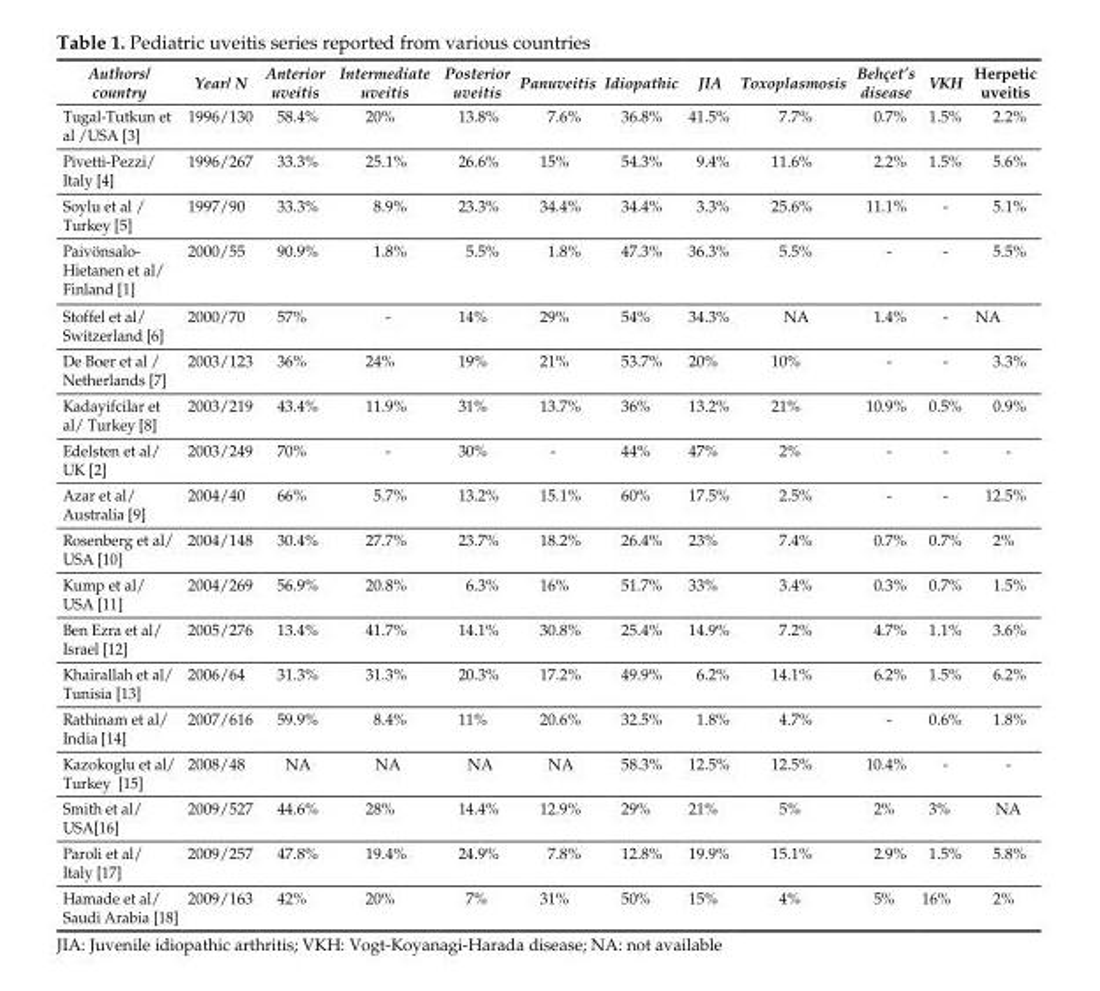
<table><thead><tr><td>Authors/ country</td><td>Year/ N</td><td>Anterior uveitis</td><td>Intermediate uveitis</td><td>Posterior uveitis</td><td>Panuveitis</td><td>Idiopathic</td><td>JIA</td><td>Toxoplasmosis</td><td>Behçet’s disease</td><td>VKH</td><td>Herpetic uveitis</td></tr></thead><tbody><tr><td>Tugal-Tutkun et al /USA [3]</td><td>1996/130</td><td>58.4%</td><td>20%</td><td>13.8%</td><td>7.6%</td><td>36.8%</td><td>41.5%</td><td>7.7%</td><td>0.7%</td><td>1.5%</td><td>2.2%</td></tr><tr><td>Pivetti-Pezzi/ Italy [4]</td><td>1996/267</td><td>33.3%</td><td>25.1%</td><td>26.6%</td><td>15%</td><td>54.3%</td><td>9.4%</td><td>11.6%</td><td>2.2%</td><td>1.5%</td><td>5.6%</td></tr><tr><td>Soylu et al / Turkey [5]</td><td>1997/90</td><td>33.3%</td><td>8.9%</td><td>23.3%</td><td>34.4%</td><td>34.4%</td><td>3.3%</td><td>25.6%</td><td>11.1%</td><td>-</td><td>5.1%</td></tr><tr><td>Paivönsalo- Hietanen et al/ Finland [1]</td><td>2000/55</td><td>90.9%</td><td>1.8%</td><td>5.5%</td><td>1.8%</td><td>47.3%</td><td>36.3%</td><td>5.5%</td><td>-</td><td>-</td><td>5.5%</td></tr><tr><td>Stoffel et al/ Switzerland [6]</td><td>2000/70</td><td>57%</td><td>-</td><td>14%</td><td>29%</td><td>54%</td><td>34.3%</td><td>NA</td><td>1.4%</td><td>-</td><td>NA</td></tr><tr><td>De Boer et al / Netherlands [7]</td><td>2003/123</td><td>36%</td><td>24%</td><td>19%</td><td>21%</td><td>53.7%</td><td>20%</td><td>10%</td><td>-</td><td>-</td><td>3.3%</td></tr><tr><td>Kadayifcilar et al/ Turkey [8]</td><td>2003/219</td><td>43.4%</td><td>11.9%</td><td>31%</td><td>13.7%</td><td>36%</td><td>13.2%</td><td>21%</td><td>10.9%</td><td>0.5%</td><td>0.9%</td></tr><tr><td>Edelsten et al/ UK [2]</td><td>2003/249</td><td>70%</td><td>-</td><td>30%</td><td>-</td><td>44%</td><td>47%</td><td>2%</td><td>-</td><td>-</td><td>-</td></tr><tr><td>Azar et al/ Australia [9]</td><td>2004/40</td><td>66%</td><td>5.7%</td><td>13.2%</td><td>15.1%</td><td>60%</td><td>17.5%</td><td>2.5%</td><td>-</td><td>-</td><td>12.5%</td></tr><tr><td>Rosenberg et al/ USA [10]</td><td>2004/148</td><td>30.4%</td><td>27.7%</td><td>23.7%</td><td>18.2%</td><td>26.4%</td><td>23%</td><td>7.4%</td><td>0.7%</td><td>0.7%</td><td>2%</td></tr><tr><td>Kump et al/ USA [11]</td><td>2004/269</td><td>56.9%</td><td>20.8%</td><td>6.3%</td><td>16%</td><td>51.7%</td><td>33%</td><td>3.4%</td><td>0.3%</td><td>0.7%</td><td>1.5%</td></tr><tr><td>Ben Ezra et al/ Israel [12]</td><td>2005/276</td><td>13.4%</td><td>41.7%</td><td>14.1%</td><td>30.8%</td><td>25.4%</td><td>14.9%</td><td>7.2%</td><td>4.7%</td><td>1.1%</td><td>3.6%</td></tr><tr><td>Khairallah et al/ Tunisia [13]</td><td>2006/64</td><td>31.3%</td><td>31.3%</td><td>20.3%</td><td>17.2%</td><td>49.9%</td><td>6.2%</td><td>14.1%</td><td>6.2%</td><td>1.5%</td><td>6.2%</td></tr><tr><td>Rathinam et al/ India [14]</td><td>2007/616</td><td>59.9%</td><td>8.4%</td><td>11%</td><td>20.6%</td><td>32.5%</td><td>1.8%</td><td>4.7%</td><td>-</td><td>0.6%</td><td>1.8%</td></tr><tr><td>Kazokoglu et al/ Turkey [15]</td><td>2008/48</td><td>NA</td><td>NA</td><td>NA</td><td>NA</td><td>58.3%</td><td>12.5%</td><td>12.5%</td><td>10.4%</td><td>-</td><td>-</td></tr><tr><td>Smith et al/ USA[16]</td><td>2009/527</td><td>44.6%</td><td>28%</td><td>14.4%</td><td>12.9%</td><td>29%</td><td>21%</td><td>5%</td><td>2%</td><td>3%</td><td>NA</td></tr><tr><td>Paroli et al/ Italy [17]</td><td>2009/257</td><td>47.8%</td><td>19.4%</td><td>24.9%</td><td>7.8%</td><td>12.8%</td><td>19.9%</td><td>15.1%</td><td>2.9%</td><td>1.5%</td><td>5.8%</td></tr><tr><td>Hamade et al/ Saudi Arabia [18]</td><td>2009/163</td><td>42%</td><td>20%</td><td>7%</td><td>31%</td><td>50%</td><td>15%</td><td>4%</td><td>5%</td><td>16%</td><td>2%</td></tr></tbody></table>